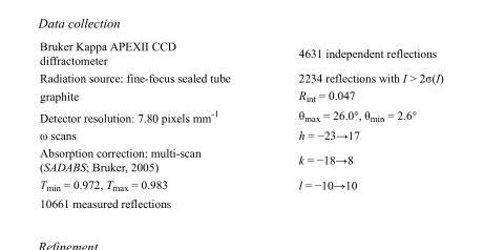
<table><tbody><tr><td>Bruker Kappa APEXII CCD diffractometer</td><td>4631 independent reflections</td></tr><tr><td>Radiation source: fine-focus sealed tube</td><td>2234 reflections with I &gt; 2σ(I)</td></tr><tr><td>graphite</td><td>R<sub>int</sub> = 0.047</td></tr><tr><td>Detector resolution: 7.80 pixels mm<sup>-1</sup></td><td>θ<sub>max</sub> = 26.0°, θ<sub>min</sub> = 2.6°</td></tr><tr><td>ω scans</td><td>h = −23→17</td></tr><tr><td>Absorption correction: multi-scan (SADABS; Bruker, 2005)</td><td>k = −18→8</td></tr><tr><td>T<sub>min</sub> = 0.972, T<sub>max</sub> = 0.983</td><td>l = −10→10</td></tr><tr><td>10661 measured reflections</td><td></td></tr></tbody></table>